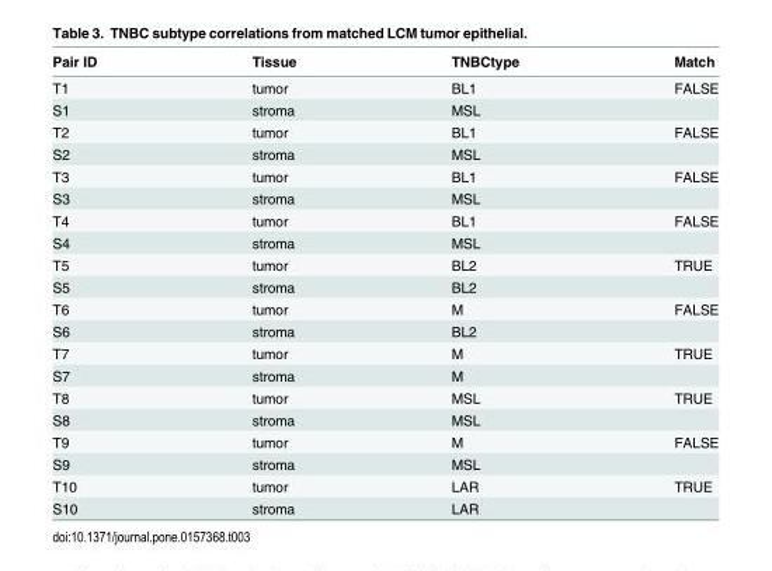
<table><thead><tr><td>Pair ID</td><td>Tissue</td><td>TNBCtype</td><td>Match</td></tr></thead><tbody><tr><td>T1</td><td>tumor</td><td>BL1</td><td>FALSE</td></tr><tr><td>S1</td><td>stroma</td><td>MSL</td><td></td></tr><tr><td>T2</td><td>tumor</td><td>BL1</td><td>FALSE</td></tr><tr><td>S2</td><td>stroma</td><td>MSL</td><td></td></tr><tr><td>T3</td><td>tumor</td><td>BL1</td><td>FALSE</td></tr><tr><td>S3</td><td>stroma</td><td>MSL</td><td></td></tr><tr><td>T4</td><td>tumor</td><td>BL1</td><td>FALSE</td></tr><tr><td>S4</td><td>stroma</td><td>MSL</td><td></td></tr><tr><td>T5</td><td>tumor</td><td>BL2</td><td>TRUE</td></tr><tr><td>S5</td><td>stroma</td><td>BL2</td><td></td></tr><tr><td>T6</td><td>tumor</td><td>M</td><td>FALSE</td></tr><tr><td>S6</td><td>stroma</td><td>BL2</td><td></td></tr><tr><td>T7</td><td>tumor</td><td>M</td><td>TRUE</td></tr><tr><td>S7</td><td>stroma</td><td>M</td><td></td></tr><tr><td>T8</td><td>tumor</td><td>MSL</td><td>TRUE</td></tr><tr><td>S8</td><td>stroma</td><td>MSL</td><td></td></tr><tr><td>T9</td><td>tumor</td><td>M</td><td>FALSE</td></tr><tr><td>S9</td><td>stroma</td><td>MSL</td><td></td></tr><tr><td>T10</td><td>tumor</td><td>LAR</td><td>TRUE</td></tr><tr><td>S10</td><td>stroma</td><td>LAR</td><td></td></tr></tbody></table>